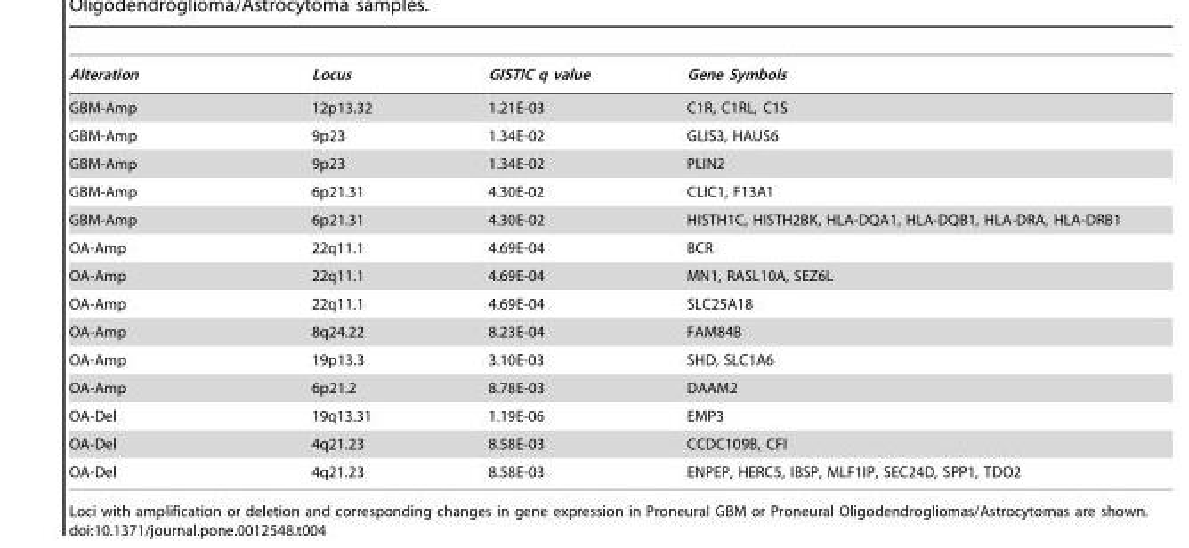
<table><thead><tr><td>Alteration</td><td>Locus</td><td>GISTIC q value</td><td>Gene Symbols</td></tr></thead><tbody><tr><td>GBM-Amp</td><td>12p13.32</td><td>1.21E-03</td><td>C1R, C1RL, C1S</td></tr><tr><td>GBM-Amp</td><td>9p23</td><td>1.34E-02</td><td>GLIS3, HAUS6</td></tr><tr><td>GBM-Amp</td><td>9p23</td><td>1.34E-02</td><td>PLIN2</td></tr><tr><td>GBM-Amp</td><td>6p21.31</td><td>4.30E-02</td><td>CLIC1, F13A1</td></tr><tr><td>GBM-Amp</td><td>6p21.31</td><td>4.30E-02</td><td>HISTH1C, HISTH2BK, HLA-DQA1, HLA-DQB1, HLA-DRA, HLA-DRB1</td></tr><tr><td>OA-Amp</td><td>22q11.1</td><td>4.69E-04</td><td>BCR</td></tr><tr><td>OA-Amp</td><td>22q11.1</td><td>4.69E-04</td><td>MN1, RASL10A, SEZ6L</td></tr><tr><td>OA-Amp</td><td>22q11.1</td><td>4.69E-04</td><td>SLC25A18</td></tr><tr><td>OA-Amp</td><td>8q24.22</td><td>8.23E-04</td><td>FAM84B</td></tr><tr><td>OA-Amp</td><td>19p13.3</td><td>3.10E-03</td><td>SHD, SLC1A6</td></tr><tr><td>OA-Amp</td><td>6p21.2</td><td>8.78E-03</td><td>DAAM2</td></tr><tr><td>OA-Del</td><td>19q13.31</td><td>1.19E-06</td><td>EMP3</td></tr><tr><td>OA-Del</td><td>4q21.23</td><td>8.58E-03</td><td>CCDC109B, CFI</td></tr><tr><td>OA-Del</td><td>4q21.23</td><td>8.58E-03</td><td>ENPEP, HERC5, IBSP, MLF1IP, SEC24D, SPP1, TDO2</td></tr></tbody></table>